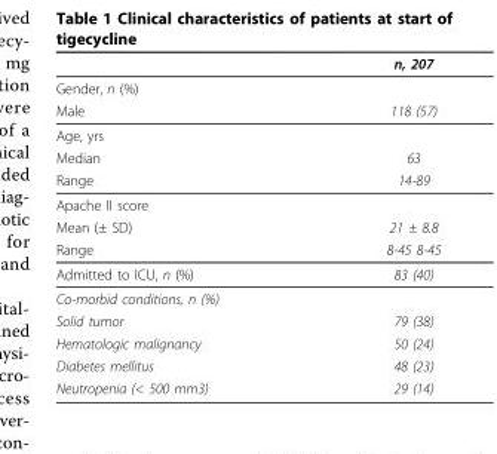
<table><thead><tr><td></td><td>n, 207</td></tr></thead><tbody><tr><td colspan="2">Gender, n (%)</td></tr><tr><td>Male</td><td>118 (57)</td></tr><tr><td colspan="2">Age, yrs</td></tr><tr><td>Median</td><td>63</td></tr><tr><td>Range</td><td>14-89</td></tr><tr><td colspan="2">Apache II score</td></tr><tr><td>Mean (± SD)</td><td>21 ± 8.8</td></tr><tr><td>Range</td><td>8-45 8-45</td></tr><tr><td>Admitted to ICU, n (%)</td><td>83 (40)</td></tr><tr><td colspan="2">Co-morbid conditions, n (%)</td></tr><tr><td>Solid tumor</td><td>79 (38)</td></tr><tr><td>Hematologic malignancy</td><td>50 (24)</td></tr><tr><td>Diabetes mellitus</td><td>48 (23)</td></tr><tr><td>Neutropenia (&lt; 500 mm3)</td><td>29 (14)</td></tr></tbody></table>